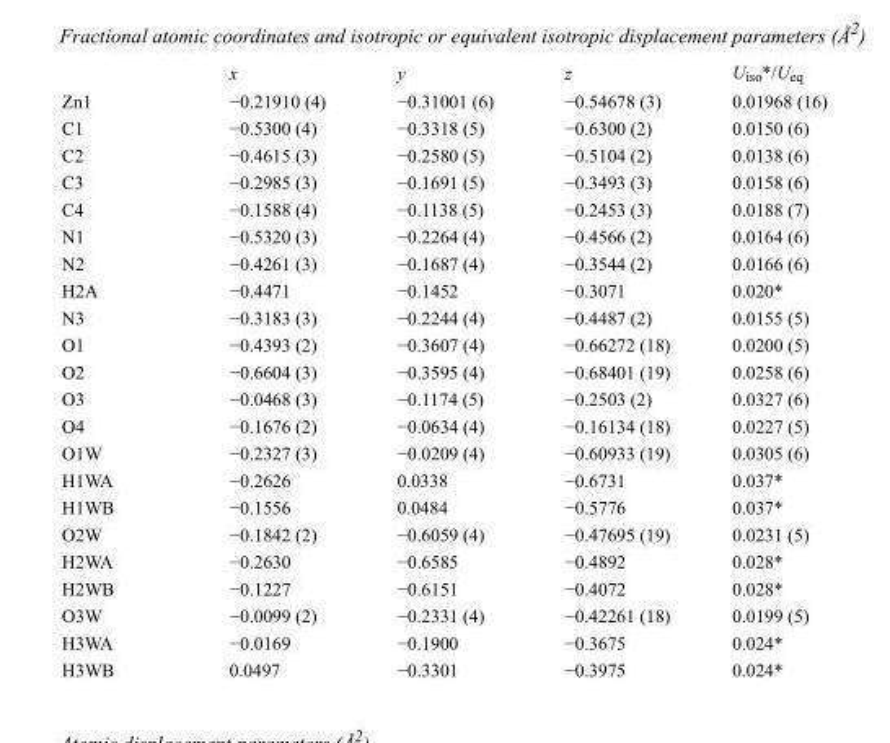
<table><thead><tr><td></td><td>x</td><td>y</td><td>z</td><td>U<sub>iso</sub>*/U<sub>eq</sub></td></tr></thead><tbody><tr><td>Zn1</td><td>−0.21910 (4)</td><td>−0.31001 (6)</td><td>−0.54678 (3)</td><td>0.01968 (16)</td></tr><tr><td>C1</td><td>−0.5300 (4)</td><td>−0.3318 (5)</td><td>−0.6300 (2)</td><td>0.0150 (6)</td></tr><tr><td>C2</td><td>−0.4615 (3)</td><td>−0.2580 (5)</td><td>−0.5104 (2)</td><td>0.0138 (6)</td></tr><tr><td>C3</td><td>−0.2985 (3)</td><td>−0.1691 (5)</td><td>−0.3493 (3)</td><td>0.0158 (6)</td></tr><tr><td>C4</td><td>−0.1588 (4)</td><td>−0.1138 (5)</td><td>−0.2453 (3)</td><td>0.0188 (7)</td></tr><tr><td>N1</td><td>−0.5320 (3)</td><td>−0.2264 (4)</td><td>−0.4566 (2)</td><td>0.0164 (6)</td></tr><tr><td>N2</td><td>−0.4261 (3)</td><td>−0.1687 (4)</td><td>−0.3544 (2)</td><td>0.0166 (6)</td></tr><tr><td>H2A</td><td>−0.4471</td><td>−0.1452</td><td>−0.3071</td><td>0.020*</td></tr><tr><td>N3</td><td>−0.3183 (3)</td><td>−0.2244 (4)</td><td>−0.4487 (2)</td><td>0.0155 (5)</td></tr><tr><td>O1</td><td>−0.4393 (2)</td><td>−0.3607 (4)</td><td>−0.66272 (18)</td><td>0.0200 (5)</td></tr><tr><td>O2</td><td>−0.6604 (3)</td><td>−0.3595 (4)</td><td>−0.68401 (19)</td><td>0.0258 (6)</td></tr><tr><td>O3</td><td>−0.0468 (3)</td><td>−0.1174 (5)</td><td>−0.2503 (2)</td><td>0.0327 (6)</td></tr><tr><td>O4</td><td>−0.1676 (2)</td><td>−0.0634 (4)</td><td>−0.16134 (18)</td><td>0.0227 (5)</td></tr><tr><td>O1W</td><td>−0.2327 (3)</td><td>−0.0209 (4)</td><td>−0.60933 (19)</td><td>0.0305 (6)</td></tr><tr><td>H1WA</td><td>−0.2626</td><td>0.0338</td><td>−0.6731</td><td>0.037*</td></tr><tr><td>H1WB</td><td>−0.1556</td><td>0.0484</td><td>−0.5776</td><td>0.037*</td></tr><tr><td>O2W</td><td>−0.1842 (2)</td><td>−0.6059 (4)</td><td>−0.47695 (19)</td><td>0.0231 (5)</td></tr><tr><td>H2WA</td><td>−0.2630</td><td>−0.6585</td><td>−0.4892</td><td>0.028*</td></tr><tr><td>H2WB</td><td>−0.1227</td><td>−0.6151</td><td>−0.4072</td><td>0.028*</td></tr><tr><td>O3W</td><td>−0.0099 (2)</td><td>−0.2331 (4)</td><td>−0.42261 (18)</td><td>0.0199 (5)</td></tr><tr><td>H3WA</td><td>−0.0169</td><td>−0.1900</td><td>−0.3675</td><td>0.024*</td></tr><tr><td>H3WB</td><td>0.0497</td><td>−0.3301</td><td>−0.3975</td><td>0.024*</td></tr></tbody></table>